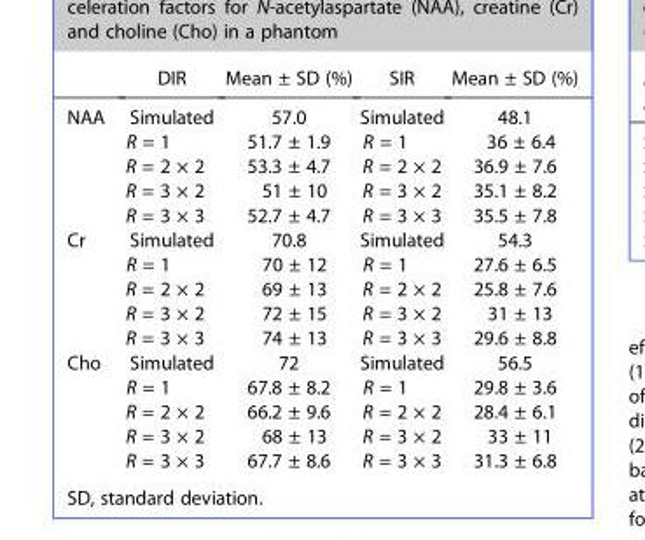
<table><thead><tr><td></td><td>DIR</td><td>Mean ± SD (%)</td><td>SIR</td><td>Mean ± SD (%)</td></tr></thead><tbody><tr><td rowspan="5">NAA</td><td>Simulated</td><td>57.0</td><td>Simulated</td><td>48.1</td></tr><tr><td>R = 1</td><td>51.7 ± 1.9</td><td>R = 1</td><td>36 ± 6.4</td></tr><tr><td>R = 2 × 2</td><td>53.3 ± 4.7</td><td>R = 2 × 2</td><td>36.9 ± 7.6</td></tr><tr><td>R = 3 × 2</td><td>51 ± 10</td><td>R = 3 × 2</td><td>35.1 ± 8.2</td></tr><tr><td>R = 3 × 3</td><td>52.7 ± 4.7</td><td>R = 3 × 3</td><td>35.5 ± 7.8</td></tr><tr><td rowspan="5">Cr</td><td>Simulated</td><td>70.8</td><td>Simulated</td><td>54.3</td></tr><tr><td>R = 1</td><td>70 ± 12</td><td>R = 1</td><td>27.6 ± 6.5</td></tr><tr><td>R = 2 × 2</td><td>69 ± 13</td><td>R = 2 × 2</td><td>25.8 ± 7.6</td></tr><tr><td>R = 3 × 2</td><td>72 ± 15</td><td>R = 3 × 2</td><td>31 ± 13</td></tr><tr><td>R = 3 × 3</td><td>74 ± 13</td><td>R = 3 × 3</td><td>29.6 ± 8.8</td></tr><tr><td rowspan="5">Cho</td><td>Simulated</td><td>72</td><td>Simulated</td><td>56.5</td></tr><tr><td>R = 1</td><td>67.8 ± 8.2</td><td>R = 1</td><td>29.8 ± 3.6</td></tr><tr><td>R = 2 × 2</td><td>66.2 ± 9.6</td><td>R = 2 × 2</td><td>28.4 ± 6.1</td></tr><tr><td>R = 3 × 2</td><td>68 ± 13</td><td>R = 3 × 2</td><td>33 ± 11</td></tr><tr><td>R = 3 × 3</td><td>67.7 ± 8.6</td><td>R = 3 × 3</td><td>31.3 ± 6.8</td></tr></tbody></table>